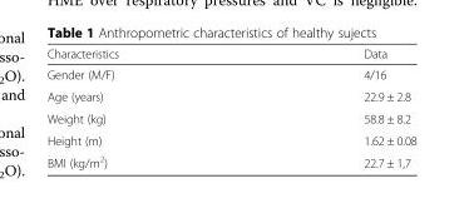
<table><thead><tr><td>Characteristics</td><td>Data</td></tr></thead><tbody><tr><td>Gender (M/F)</td><td>4/16</td></tr><tr><td>Age (years)</td><td>22.9 ± 2.8</td></tr><tr><td>Weight (kg)</td><td>58.8 ± 8.2</td></tr><tr><td>Height (m)</td><td>1.62 ± 0.08</td></tr><tr><td>BMI (kg/m<sup>2</sup>)</td><td>22.7 ± 1,7</td></tr></tbody></table>